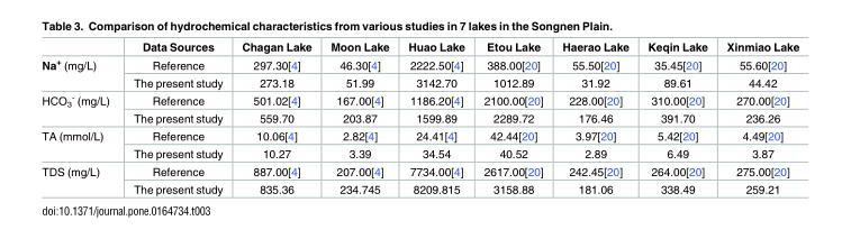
<table><thead><tr><td></td><td>Data Sources</td><td>Chagan Lake</td><td>Moon Lake</td><td>Huao Lake</td><td>Etou Lake</td><td>Haerao Lake</td><td>Keqin Lake</td><td>Xinmiao Lake</td></tr></thead><tbody><tr><td rowspan="2">Na<sup>+</sup> (mg/L)</td><td>Reference</td><td>297.30[4]</td><td>46.30[4]</td><td>2222.50[4]</td><td>388.00[20]</td><td>55.50[20]</td><td>35.45[20]</td><td>55.60[20]</td></tr><tr><td>The present study</td><td>273.18</td><td>51.99</td><td>3142.70</td><td>1012.89</td><td>31.92</td><td>89.61</td><td>44.42</td></tr><tr><td rowspan="2">HCO<sub>3</sub> <sup>-</sup> (mg/L)</td><td>Reference</td><td>501.02[4]</td><td>167.00[4]</td><td>1186.20[4]</td><td>2100.00[20]</td><td>228.00[20]</td><td>310.00[20]</td><td>270.00[20]</td></tr><tr><td>The present study</td><td>559.70</td><td>203.87</td><td>1599.89</td><td>2289.72</td><td>176.46</td><td>391.70</td><td>236.26</td></tr><tr><td rowspan="2">TA (mmol/L)</td><td>Reference</td><td>10.06[4]</td><td>2.82[4]</td><td>24.41[4]</td><td>42.44[20]</td><td>3.97[20]</td><td>5.42[20]</td><td>4.49[20]</td></tr><tr><td>The present study</td><td>10.27</td><td>3.39</td><td>34.54</td><td>40.52</td><td>2.89</td><td>6.49</td><td>3.87</td></tr><tr><td rowspan="2">TDS (mg/L)</td><td>Reference</td><td>887.00[4]</td><td>207.00[4]</td><td>7734.00[4]</td><td>2617.00[20]</td><td>242.45[20]</td><td>264.00[20]</td><td>275.00[20]</td></tr><tr><td>The present study</td><td>835.36</td><td>234.745</td><td>8209.815</td><td>3158.88</td><td>181.06</td><td>338.49</td><td>259.21</td></tr></tbody></table>